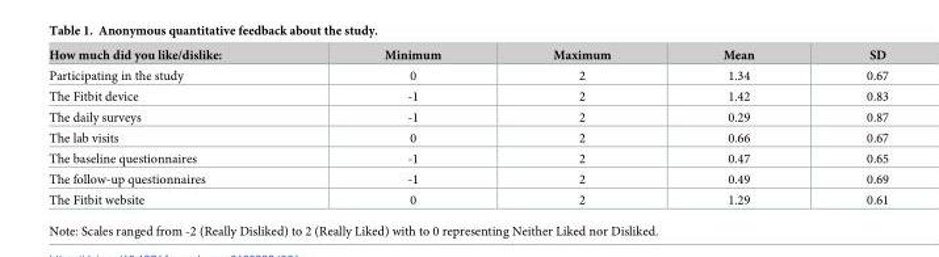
<table><thead><tr><td>How much did you like/dislike:</td><td>Minimum</td><td>Maximum</td><td>Mean</td><td>SD</td></tr></thead><tbody><tr><td>Participating in the study</td><td>0</td><td>2</td><td>1.34</td><td>0.67</td></tr><tr><td>The Fitbit device</td><td>-1</td><td>2</td><td>1.42</td><td>0.83</td></tr><tr><td>The daily surveys</td><td>-1</td><td>2</td><td>0.29</td><td>0.87</td></tr><tr><td>The lab visits</td><td>0</td><td>2</td><td>0.66</td><td>0.67</td></tr><tr><td>The baseline questionnaires</td><td>-1</td><td>2</td><td>0.47</td><td>0.65</td></tr><tr><td>The follow-up questionnaires</td><td>-1</td><td>2</td><td>0.49</td><td>0.69</td></tr><tr><td>The Fitbit website</td><td>0</td><td>2</td><td>1.29</td><td>0.61</td></tr></tbody></table>